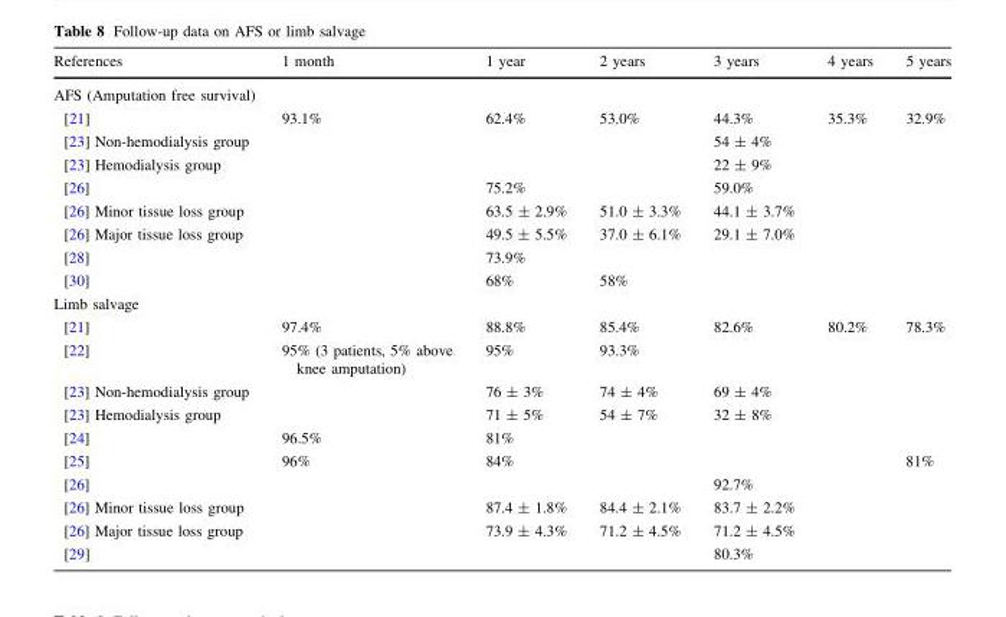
<table><thead><tr><td>References</td><td>1 month</td><td>1 year</td><td>2 years</td><td>3 years</td><td>4 years</td><td>5 years</td></tr></thead><tbody><tr><td colspan="7">AFS (Amputation free survival)</td></tr><tr><td>[21]</td><td>93.1%</td><td>62.4%</td><td>53.0%</td><td>44.3%</td><td>35.3%</td><td>32.9%</td></tr><tr><td>[23] Non-hemodialysis group</td><td></td><td></td><td></td><td>54 ± 4%</td><td></td><td></td></tr><tr><td>[23] Hemodialysis group</td><td></td><td></td><td></td><td>22 ± 9%</td><td></td><td></td></tr><tr><td>[26]</td><td></td><td>75.2%</td><td></td><td>59.0%</td><td></td><td></td></tr><tr><td>[26] Minor tissue loss group</td><td></td><td>63.5 ± 2.9%</td><td>51.0 ± 3.3%</td><td>44.1 ± 3.7%</td><td></td><td></td></tr><tr><td>[26] Major tissue loss group</td><td></td><td>49.5 ± 5.5%</td><td>37.0 ± 6.1%</td><td>29.1 ± 7.0%</td><td></td><td></td></tr><tr><td>[28]</td><td></td><td>73.9%</td><td></td><td></td><td></td><td></td></tr><tr><td>[30]</td><td></td><td>68%</td><td>58%</td><td></td><td></td><td></td></tr><tr><td colspan="7">Limb salvage</td></tr><tr><td>[21]</td><td>97.4%</td><td>88.8%</td><td>85.4%</td><td>82.6%</td><td>80.2%</td><td>78.3%</td></tr><tr><td>[22]</td><td>95% (3 patients, 5% above knee amputation)</td><td>95%</td><td>93.3%</td><td></td><td></td><td></td></tr><tr><td>[23] Non-hemodialysis group</td><td></td><td>76 ± 3%</td><td>74 ± 4%</td><td>69 ± 4%</td><td></td><td></td></tr><tr><td>[23] Hemodialysis group</td><td></td><td>71 ± 5%</td><td>54 ± 7%</td><td>32 ± 8%</td><td></td><td></td></tr><tr><td>[24]</td><td>96.5%</td><td>81%</td><td></td><td></td><td></td><td></td></tr><tr><td>[25]</td><td>96%</td><td>84%</td><td></td><td></td><td></td><td>81%</td></tr><tr><td>[26]</td><td></td><td></td><td></td><td>92.7%</td><td></td><td></td></tr><tr><td>[26] Minor tissue loss group</td><td></td><td>87.4 ± 1.8%</td><td>84.4 ± 2.1%</td><td>83.7 ± 2.2%</td><td></td><td></td></tr><tr><td>[26] Major tissue loss group</td><td></td><td>73.9 ± 4.3%</td><td>71.2 ± 4.5%</td><td>71.2 ± 4.5%</td><td></td><td></td></tr><tr><td>[29]</td><td></td><td></td><td></td><td>80.3%</td><td></td><td></td></tr></tbody></table>